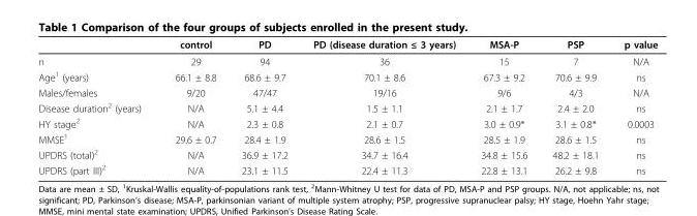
<table><thead><tr><td></td><td>control</td><td>PD</td><td>PD (disease duration ≤ 3 years)</td><td>MSA-P</td><td>PSP</td><td>p value</td></tr></thead><tbody><tr><td>n</td><td>29</td><td>94</td><td>36</td><td>15</td><td>7</td><td>N/A</td></tr><tr><td>Age<sup>1</sup> (years)</td><td>66.1 ± 8.8</td><td>68.6 ± 9.7</td><td>70.1 ± 8.6</td><td>67.3 ± 9.2</td><td>70.6 ± 9.9</td><td>ns</td></tr><tr><td>Males/females</td><td>9/20</td><td>47/47</td><td>19/16</td><td>9/6</td><td>4/3</td><td>N/A</td></tr><tr><td>Disease duration<sup>2</sup> (years)</td><td>N/A</td><td>5.1 ± 4.4</td><td>1.5 ± 1.1</td><td>2.1 ± 1.7</td><td>2.4 ± 2.0</td><td>ns</td></tr><tr><td>HY stage<sup>2</sup></td><td>N/A</td><td>2.3 ± 0.8</td><td>2.1 ± 0.7</td><td>3.0 ± 0.9*</td><td>3.1 ± 0.8*</td><td>0.0003</td></tr><tr><td>MMSE<sup>1</sup></td><td>29.6 ± 0.7</td><td>28.4 ± 1.9</td><td>28.6 ± 1.5</td><td>28.5 ± 1.9</td><td>28.6 ± 1.5</td><td>ns</td></tr><tr><td>UPDRS (total)<sup>2</sup></td><td>N/A</td><td>36.9 ± 17.2</td><td>34.7 ± 16.4</td><td>34.8 ± 15.6</td><td>48.2 ± 18.1</td><td>ns</td></tr><tr><td>UPDRS (part III)<sup>2</sup></td><td>N/A</td><td>23.1 ± 11.5</td><td>22.4 ± 11.3</td><td>22.8 ± 13.1</td><td>26.2 ± 9.8</td><td>ns</td></tr></tbody></table>